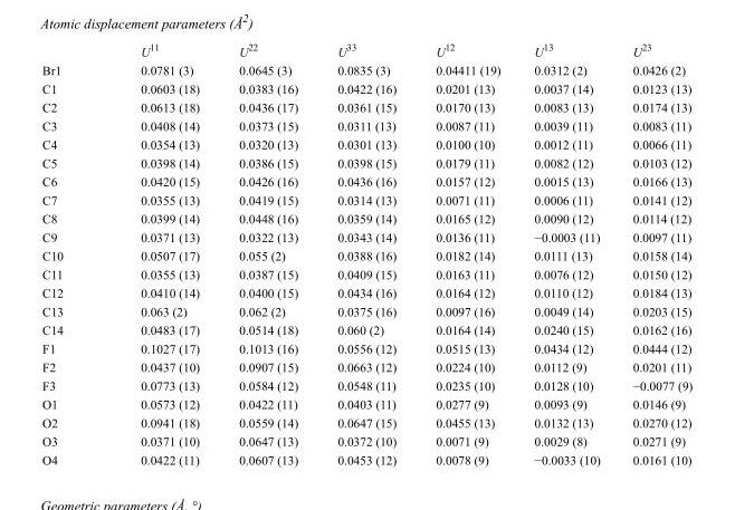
<table><thead><tr><td></td><td>U<sup>11</sup></td><td>U<sup>22</sup></td><td>U<sup>33</sup></td><td>U<sup>12</sup></td><td>U<sup>13</sup></td><td>U<sup>23</sup></td></tr></thead><tbody><tr><td>Br1</td><td>0.0781 (3)</td><td>0.0645 (3)</td><td>0.0835 (3)</td><td>0.04411 (19)</td><td>0.0312 (2)</td><td>0.0426 (2)</td></tr><tr><td>C1</td><td>0.0603 (18)</td><td>0.0383 (16)</td><td>0.0422 (16)</td><td>0.0201 (13)</td><td>0.0037 (14)</td><td>0.0123 (13)</td></tr><tr><td>C2</td><td>0.0613 (18)</td><td>0.0436 (17)</td><td>0.0361 (15)</td><td>0.0170 (13)</td><td>0.0083 (13)</td><td>0.0174 (13)</td></tr><tr><td>C3</td><td>0.0408 (14)</td><td>0.0373 (15)</td><td>0.0311 (13)</td><td>0.0087 (11)</td><td>0.0039 (11)</td><td>0.0083 (11)</td></tr><tr><td>C4</td><td>0.0354 (13)</td><td>0.0320 (13)</td><td>0.0301 (13)</td><td>0.0100 (10)</td><td>0.0012 (11)</td><td>0.0066 (11)</td></tr><tr><td>C5</td><td>0.0398 (14)</td><td>0.0386 (15)</td><td>0.0398 (15)</td><td>0.0179 (11)</td><td>0.0082 (12)</td><td>0.0103 (12)</td></tr><tr><td>C6</td><td>0.0420 (15)</td><td>0.0426 (16)</td><td>0.0436 (16)</td><td>0.0157 (12)</td><td>0.0015 (13)</td><td>0.0166 (13)</td></tr><tr><td>C7</td><td>0.0355 (13)</td><td>0.0419 (15)</td><td>0.0314 (13)</td><td>0.0071 (11)</td><td>0.0006 (11)</td><td>0.0141 (12)</td></tr><tr><td>C8</td><td>0.0399 (14)</td><td>0.0448 (16)</td><td>0.0359 (14)</td><td>0.0165 (12)</td><td>0.0090 (12)</td><td>0.0114 (12)</td></tr><tr><td>C9</td><td>0.0371 (13)</td><td>0.0322 (13)</td><td>0.0343 (14)</td><td>0.0136 (11)</td><td>−0.0003 (11)</td><td>0.0097 (11)</td></tr><tr><td>C10</td><td>0.0507 (17)</td><td>0.055 (2)</td><td>0.0388 (16)</td><td>0.0182 (14)</td><td>0.0111 (13)</td><td>0.0158 (14)</td></tr><tr><td>C11</td><td>0.0355 (13)</td><td>0.0387 (15)</td><td>0.0409 (15)</td><td>0.0163 (11)</td><td>0.0076 (12)</td><td>0.0150 (12)</td></tr><tr><td>C12</td><td>0.0410 (14)</td><td>0.0400 (15)</td><td>0.0434 (16)</td><td>0.0164 (12)</td><td>0.0110 (12)</td><td>0.0184 (13)</td></tr><tr><td>C13</td><td>0.063 (2)</td><td>0.062 (2)</td><td>0.0375 (16)</td><td>0.0097 (16)</td><td>0.0049 (14)</td><td>0.0203 (15)</td></tr><tr><td>C14</td><td>0.0483 (17)</td><td>0.0514 (18)</td><td>0.060 (2)</td><td>0.0164 (14)</td><td>0.0240 (15)</td><td>0.0162 (16)</td></tr><tr><td>F1</td><td>0.1027 (17)</td><td>0.1013 (16)</td><td>0.0556 (12)</td><td>0.0515 (13)</td><td>0.0434 (12)</td><td>0.0444 (12)</td></tr><tr><td>F2</td><td>0.0437 (10)</td><td>0.0907 (15)</td><td>0.0663 (12)</td><td>0.0224 (10)</td><td>0.0112 (9)</td><td>0.0201 (11)</td></tr><tr><td>F3</td><td>0.0773 (13)</td><td>0.0584 (12)</td><td>0.0548 (11)</td><td>0.0235 (10)</td><td>0.0128 (10)</td><td>−0.0077 (9)</td></tr><tr><td>O1</td><td>0.0573 (12)</td><td>0.0422 (11)</td><td>0.0403 (11)</td><td>0.0277 (9)</td><td>0.0093 (9)</td><td>0.0146 (9)</td></tr><tr><td>O2</td><td>0.0941 (18)</td><td>0.0559 (14)</td><td>0.0647 (15)</td><td>0.0455 (13)</td><td>0.0132 (13)</td><td>0.0270 (12)</td></tr><tr><td>O3</td><td>0.0371 (10)</td><td>0.0647 (13)</td><td>0.0372 (10)</td><td>0.0071 (9)</td><td>0.0029 (8)</td><td>0.0271 (9)</td></tr><tr><td>O4</td><td>0.0422 (11)</td><td>0.0607 (13)</td><td>0.0453 (12)</td><td>0.0078 (9)</td><td>−0.0033 (10)</td><td>0.0161 (10)</td></tr></tbody></table>